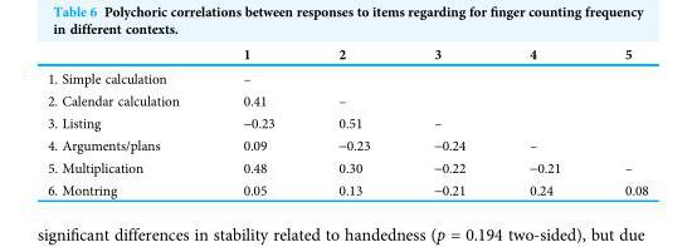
<table><thead><tr><td></td><td>1</td><td>2</td><td>3</td><td>4</td><td>5</td></tr></thead><tbody><tr><td>1. Simple calculation</td><td>–</td><td></td><td></td><td></td><td></td></tr><tr><td>2. Calendar calculation</td><td>0.41</td><td>–</td><td></td><td></td><td></td></tr><tr><td>3. Listing</td><td>-0.23</td><td>0.51</td><td>–</td><td></td><td></td></tr><tr><td>4. Arguments/plans</td><td>0.09</td><td>-0.23</td><td>-0.24</td><td>–</td><td></td></tr><tr><td>5. Multiplication</td><td>0.48</td><td>0.30</td><td>-0.22</td><td>-0.21</td><td>–</td></tr><tr><td>6. Montring</td><td>0.05</td><td>0.13</td><td>-0.21</td><td>0.24</td><td>0.08</td></tr></tbody></table>